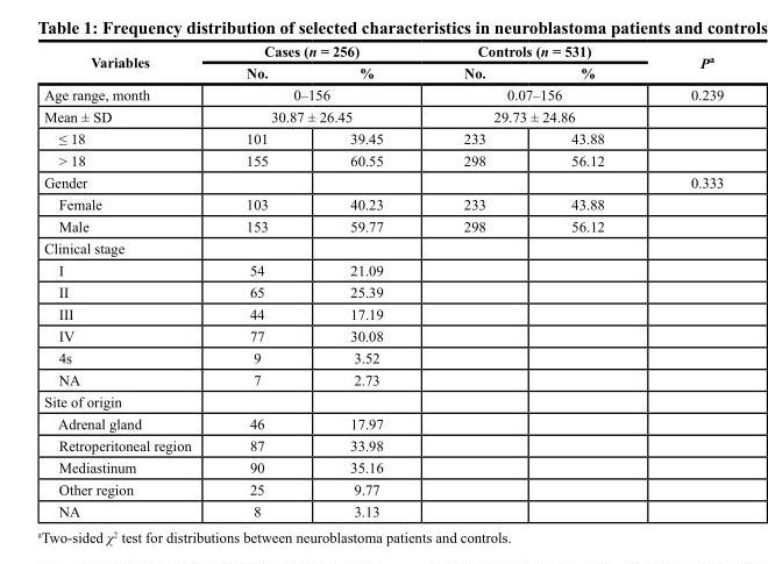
<table><thead><tr><td rowspan="2">Variables</td><td colspan="2">Cases (n = 256)</td><td colspan="2">Controls (n = 531)</td><td rowspan="2">P<sup>a</sup></td></tr><tr><td>No.</td><td>%</td><td>No.</td><td>%</td></tr></thead><tbody><tr><td>Age range, month</td><td colspan="2">0–156</td><td colspan="2">0.07–156</td><td>0.239</td></tr><tr><td>Mean ± SD</td><td colspan="2">30.87 ± 26.45</td><td colspan="2">29.73 ± 24.86</td><td></td></tr><tr><td>≤ 18</td><td>101</td><td>39.45</td><td>233</td><td>43.88</td><td></td></tr><tr><td>&gt; 18</td><td>155</td><td>60.55</td><td>298</td><td>56.12</td><td></td></tr><tr><td>Gender</td><td></td><td></td><td></td><td></td><td>0.333</td></tr><tr><td>Female</td><td>103</td><td>40.23</td><td>233</td><td>43.88</td><td></td></tr><tr><td>Male</td><td>153</td><td>59.77</td><td>298</td><td>56.12</td><td></td></tr><tr><td colspan="6">Clinical stage</td></tr><tr><td>I</td><td>54</td><td>21.09</td><td></td><td></td><td></td></tr><tr><td>II</td><td>65</td><td>25.39</td><td></td><td></td><td></td></tr><tr><td>III</td><td>44</td><td>17.19</td><td></td><td></td><td></td></tr><tr><td>IV</td><td>77</td><td>30.08</td><td></td><td></td><td></td></tr><tr><td>4s</td><td>9</td><td>3.52</td><td></td><td></td><td></td></tr><tr><td>NA</td><td>7</td><td>2.73</td><td></td><td></td><td></td></tr><tr><td colspan="6">Site of origin</td></tr><tr><td>Adrenal gland</td><td>46</td><td>17.97</td><td></td><td></td><td></td></tr><tr><td>Retroperitoneal region</td><td>87</td><td>33.98</td><td></td><td></td><td></td></tr><tr><td>Mediastinum</td><td>90</td><td>35.16</td><td></td><td></td><td></td></tr><tr><td>Other region</td><td>25</td><td>9.77</td><td></td><td></td><td></td></tr><tr><td>NA</td><td>8</td><td>3.13</td><td></td><td></td><td></td></tr></tbody></table>